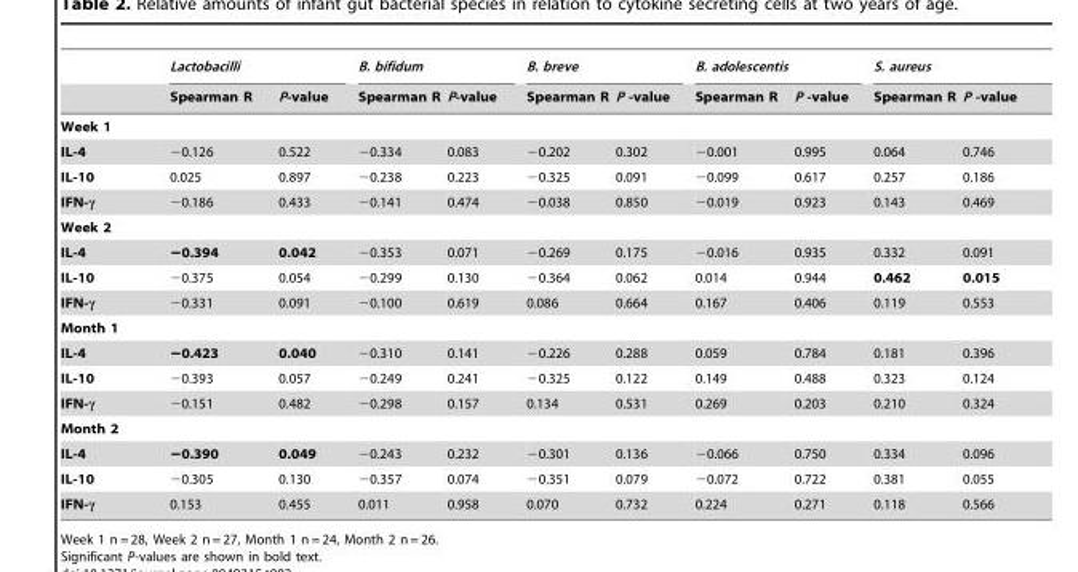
<table><thead><tr><td rowspan="2"></td><td colspan="2">Lactobacilli</td><td colspan="2">B. bifidum</td><td colspan="2">B. breve</td><td colspan="2">B. adolescentis</td><td colspan="2">S. aureus</td></tr><tr><td>Spearman R</td><td>P-value</td><td>Spearman R</td><td>P-value</td><td>Spearman R</td><td>P -value</td><td>Spearman R</td><td>P -value</td><td>Spearman R</td><td>P -value</td></tr></thead><tbody><tr><td colspan="11">Week 1</td></tr><tr><td>IL-4</td><td>−0.126</td><td>0.522</td><td>−0.334</td><td>0.083</td><td>−0.202</td><td>0.302</td><td>−0.001</td><td>0.995</td><td>0.064</td><td>0.746</td></tr><tr><td>IL-10</td><td>0.025</td><td>0.897</td><td>−0.238</td><td>0.223</td><td>−0.325</td><td>0.091</td><td>−0.099</td><td>0.617</td><td>0.257</td><td>0.186</td></tr><tr><td>IFN-γ</td><td>−0.186</td><td>0.433</td><td>−0.141</td><td>0.474</td><td>−0.038</td><td>0.850</td><td>−0.019</td><td>0.923</td><td>0.143</td><td>0.469</td></tr><tr><td colspan="11">Week 2</td></tr><tr><td>IL-4</td><td>−0.394</td><td>0.042</td><td>−0.353</td><td>0.071</td><td>−0.269</td><td>0.175</td><td>−0.016</td><td>0.935</td><td>0.332</td><td>0.091</td></tr><tr><td>IL-10</td><td>−0.375</td><td>0.054</td><td>−0.299</td><td>0.130</td><td>−0.364</td><td>0.062</td><td>0.014</td><td>0.944</td><td>0.462</td><td>0.015</td></tr><tr><td>IFN-γ</td><td>−0.331</td><td>0.091</td><td>−0.100</td><td>0.619</td><td>0.086</td><td>0.664</td><td>0.167</td><td>0.406</td><td>0.119</td><td>0.553</td></tr><tr><td colspan="11">Month 1</td></tr><tr><td>IL-4</td><td>−0.423</td><td>0.040</td><td>−0.310</td><td>0.141</td><td>−0.226</td><td>0.288</td><td>0.059</td><td>0.784</td><td>0.181</td><td>0.396</td></tr><tr><td>IL-10</td><td>−0.393</td><td>0.057</td><td>−0.249</td><td>0.241</td><td>−0.325</td><td>0.122</td><td>0.149</td><td>0.488</td><td>0.323</td><td>0.124</td></tr><tr><td>IFN-γ</td><td>−0.151</td><td>0.482</td><td>−0.298</td><td>0.157</td><td>0.134</td><td>0.531</td><td>0.269</td><td>0.203</td><td>0.210</td><td>0.324</td></tr><tr><td colspan="11">Month 2</td></tr><tr><td>IL-4</td><td>−0.390</td><td>0.049</td><td>−0.243</td><td>0.232</td><td>−0.301</td><td>0.136</td><td>−0.066</td><td>0.750</td><td>0.334</td><td>0.096</td></tr><tr><td>IL-10</td><td>−0.305</td><td>0.130</td><td>−0.357</td><td>0.074</td><td>−0.351</td><td>0.079</td><td>−0.072</td><td>0.722</td><td>0.381</td><td>0.055</td></tr><tr><td>IFN-γ</td><td>0.153</td><td>0.455</td><td>0.011</td><td>0.958</td><td>0.070</td><td>0.732</td><td>0.224</td><td>0.271</td><td>0.118</td><td>0.566</td></tr></tbody></table>